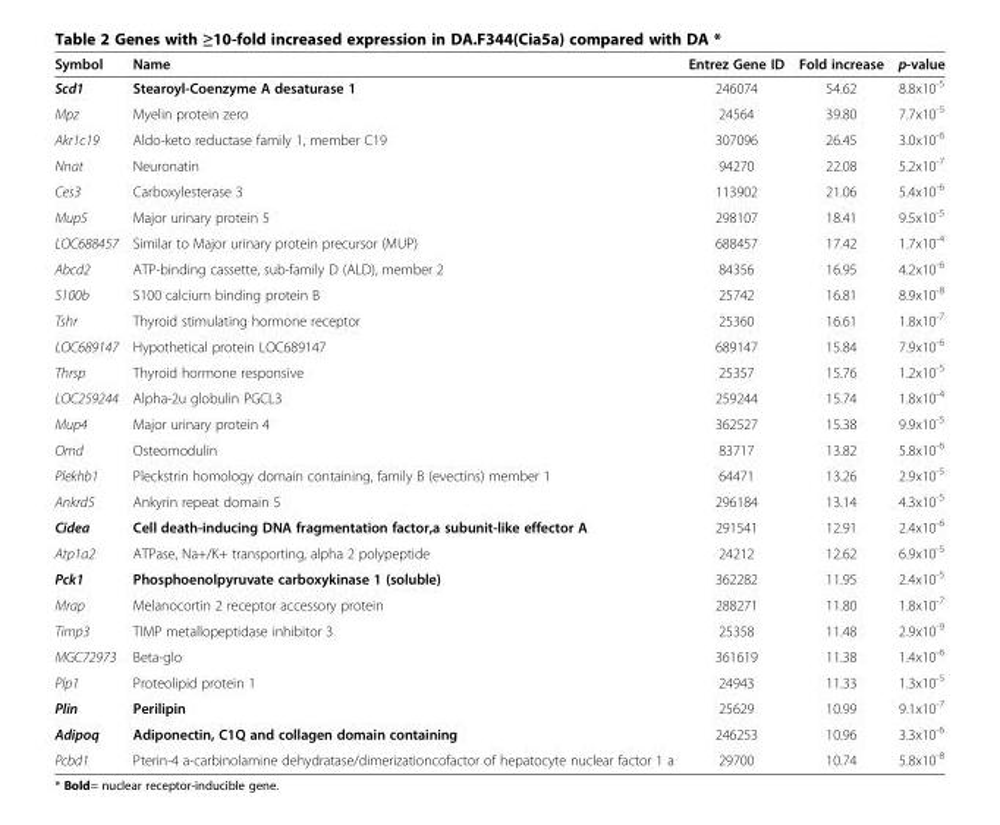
<table><thead><tr><td>Symbol</td><td>Name</td><td>Entrez Gene ID</td><td>Fold increase</td><td>p-value</td></tr></thead><tbody><tr><td>Scd1</td><td>Stearoyl-Coenzyme A desaturase 1</td><td>246074</td><td>54.62</td><td>8.8x10<sup>-5</sup></td></tr><tr><td>Mpz</td><td>Myelin protein zero</td><td>24564</td><td>39.80</td><td>7.7x10<sup>-5</sup></td></tr><tr><td>Akr1c19</td><td>Aldo-keto reductase family 1, member C19</td><td>307096</td><td>26.45</td><td>3.0x10<sup>-6</sup></td></tr><tr><td>Nnat</td><td>Neuronatin</td><td>94270</td><td>22.08</td><td>5.2x10<sup>-7</sup></td></tr><tr><td>Ces3</td><td>Carboxylesterase 3</td><td>113902</td><td>21.06</td><td>5.4x10<sup>-6</sup></td></tr><tr><td>Mup5</td><td>Major urinary protein 5</td><td>298107</td><td>18.41</td><td>9.5x10<sup>-5</sup></td></tr><tr><td>LOC688457</td><td>Similar to Major urinary protein precursor (MUP)</td><td>688457</td><td>17.42</td><td>1.7x10<sup>-4</sup></td></tr><tr><td>Abcd2</td><td>ATP-binding cassette, sub-family D (ALD), member 2</td><td>84356</td><td>16.95</td><td>4.2x10<sup>-6</sup></td></tr><tr><td>S100b</td><td>S100 calcium binding protein B</td><td>25742</td><td>16.81</td><td>8.9x10<sup>-8</sup></td></tr><tr><td>Tshr</td><td>Thyroid stimulating hormone receptor</td><td>25360</td><td>16.61</td><td>1.8x10<sup>-7</sup></td></tr><tr><td>LOC689147</td><td>Hypothetical protein LOC689147</td><td>689147</td><td>15.84</td><td>7.9x10<sup>-6</sup></td></tr><tr><td>Thrsp</td><td>Thyroid hormone responsive</td><td>25357</td><td>15.76</td><td>1.2x10<sup>-5</sup></td></tr><tr><td>LOC259244</td><td>Alpha-2u globulin PGCL3</td><td>259244</td><td>15.74</td><td>1.8x10<sup>-4</sup></td></tr><tr><td>Mup4</td><td>Major urinary protein 4</td><td>362527</td><td>15.38</td><td>9.9x10<sup>-5</sup></td></tr><tr><td>Omd</td><td>Osteomodulin</td><td>83717</td><td>13.82</td><td>5.8x10<sup>-6</sup></td></tr><tr><td>Plekhb1</td><td>Pleckstrin homology domain containing, family B (evectins) member 1</td><td>64471</td><td>13.26</td><td>2.9x10<sup>-5</sup></td></tr><tr><td>Ankrd5</td><td>Ankyrin repeat domain 5</td><td>296184</td><td>13.14</td><td>4.3x10<sup>-5</sup></td></tr><tr><td>Cidea</td><td>Cell death-inducing DNA fragmentation factor,a subunit-like effector A</td><td>291541</td><td>12.91</td><td>2.4x10<sup>-6</sup></td></tr><tr><td>Atp1a2</td><td>ATPase, Na+/K+ transporting, alpha 2 polypeptide</td><td>24212</td><td>12.62</td><td>6.9x10<sup>-5</sup></td></tr><tr><td>Pck1</td><td>Phosphoenolpyruvate carboxykinase 1 (soluble)</td><td>362282</td><td>11.95</td><td>2.4x10<sup>-5</sup></td></tr><tr><td>Mrap</td><td>Melanocortin 2 receptor accessory protein</td><td>288271</td><td>11.80</td><td>1.8x10<sup>-7</sup></td></tr><tr><td>Timp3</td><td>TIMP metallopeptidase inhibitor 3</td><td>25358</td><td>11.48</td><td>2.9x10<sup>-9</sup></td></tr><tr><td>MGC72973</td><td>Beta-glo</td><td>361619</td><td>11.38</td><td>1.4x10<sup>-6</sup></td></tr><tr><td>Plp1</td><td>Proteolipid protein 1</td><td>24943</td><td>11.33</td><td>1.3x10<sup>-5</sup></td></tr><tr><td>Plin</td><td>Perilipin</td><td>25629</td><td>10.99</td><td>9.1x10<sup>-7</sup></td></tr><tr><td>Adipoq</td><td>Adiponectin, C1Q and collagen domain containing</td><td>246253</td><td>10.96</td><td>3.3x10<sup>-6</sup></td></tr><tr><td>Pcbd1</td><td>Pterin-4 a-carbinolamine dehydratase/dimerizationcofactor of hepatocyte nuclear factor 1 a</td><td>29700</td><td>10.74</td><td>5.8x10<sup>-8</sup></td></tr></tbody></table>